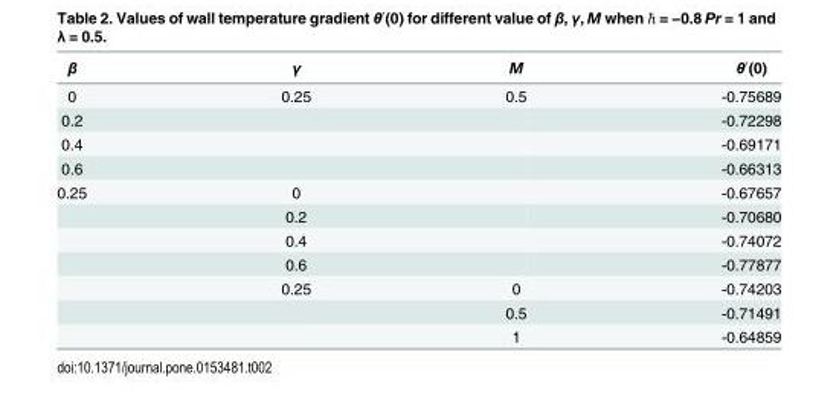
<table><thead><tr><td>β</td><td>γ</td><td>M</td><td>θ′(0)</td></tr></thead><tbody><tr><td>0</td><td>0.25</td><td>0.5</td><td>-0.75689</td></tr><tr><td>0.2</td><td></td><td></td><td>-0.72298</td></tr><tr><td>0.4</td><td></td><td></td><td>-0.69171</td></tr><tr><td>0.6</td><td></td><td></td><td>-0.66313</td></tr><tr><td rowspan="7">0.25</td><td>0</td><td></td><td>-0.67657</td></tr><tr><td>0.2</td><td></td><td>-0.70680</td></tr><tr><td>0.4</td><td></td><td>-0.74072</td></tr><tr><td>0.6</td><td></td><td>-0.77877</td></tr><tr><td>0.25</td><td>0</td><td>-0.74203</td></tr><tr><td></td><td>0.5</td><td>-0.71491</td></tr><tr><td></td><td>1</td><td>-0.64859</td></tr></tbody></table>